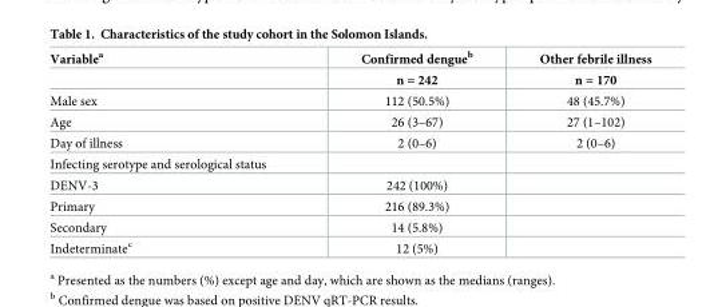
<table><thead><tr><td rowspan="2">Variable<sup>a</sup></td><td rowspan="2">Confirmed dengue<sup>b</sup> n = 242</td><td rowspan="2">Other febrile illness n = 170</td></tr><tr></tr></thead><tbody><tr><td>Male sex</td><td>112 (50.5%)</td><td>48 (45.7%)</td></tr><tr><td>Age</td><td>26 (3–67)</td><td>27 (1–102)</td></tr><tr><td>Day of illness</td><td>2 (0–6)</td><td>2 (0–6)</td></tr><tr><td colspan="3">Infecting serotype and serological status</td></tr><tr><td>DENV-3</td><td>242 (100%)</td><td></td></tr><tr><td>Primary</td><td>216 (89.3%)</td><td></td></tr><tr><td>Secondary</td><td>14 (5.8%)</td><td></td></tr><tr><td>Indeterminate<sup>c</sup></td><td>12 (5%)</td><td></td></tr></tbody></table>